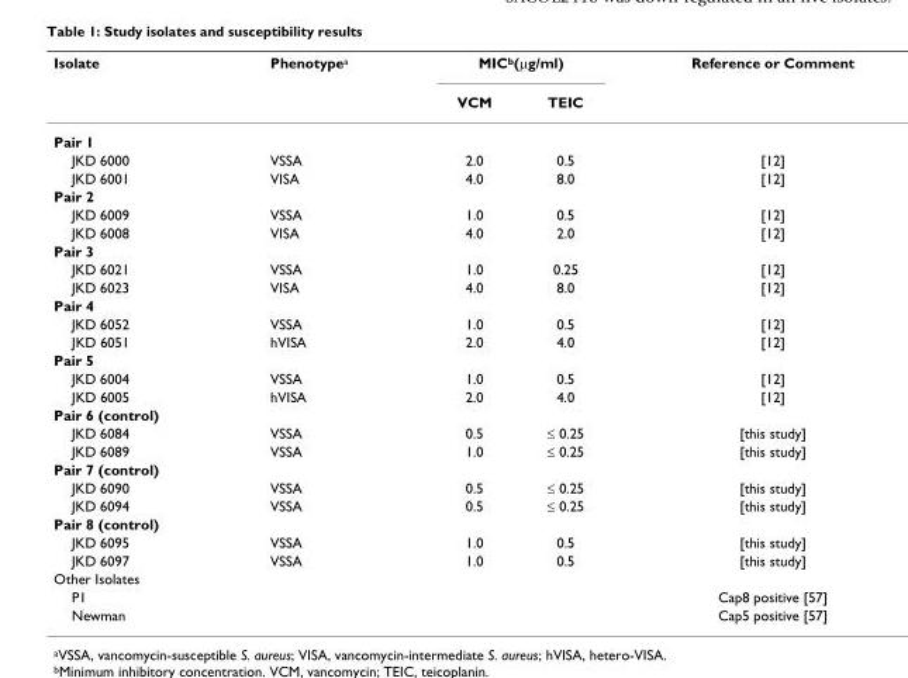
<table><thead><tr><td rowspan="2">Isolate</td><td rowspan="2">Phenotype<sup>a</sup></td><td colspan="2">MIC<sup>b</sup>(μg/ml)</td><td rowspan="2">Reference or Comment</td></tr><tr><td>VCM</td><td>TEIC</td></tr></thead><tbody><tr><td colspan="5">Pair 1</td></tr><tr><td>JKD 6000</td><td>VSSA</td><td>2.0</td><td>0.5</td><td>[12]</td></tr><tr><td>JKD 6001</td><td>VISA</td><td>4.0</td><td>8.0</td><td>[12]</td></tr><tr><td colspan="5">Pair 2</td></tr><tr><td>JKD 6009</td><td>VSSA</td><td>1.0</td><td>0.5</td><td>[12]</td></tr><tr><td>JKD 6008</td><td>VISA</td><td>4.0</td><td>2.0</td><td>[12]</td></tr><tr><td colspan="5">Pair 3</td></tr><tr><td>JKD 6021</td><td>VSSA</td><td>1.0</td><td>0.25</td><td>[12]</td></tr><tr><td>JKD 6023</td><td>VISA</td><td>4.0</td><td>8.0</td><td>[12]</td></tr><tr><td colspan="5">Pair 4</td></tr><tr><td>JKD 6052</td><td>VSSA</td><td>1.0</td><td>0.5</td><td>[12]</td></tr><tr><td>JKD 6051</td><td>hVISA</td><td>2.0</td><td>4.0</td><td>[12]</td></tr><tr><td colspan="5">Pair 5</td></tr><tr><td>JKD 6004</td><td>VSSA</td><td>1.0</td><td>0.5</td><td>[12]</td></tr><tr><td>JKD 6005</td><td>hVISA</td><td>2.0</td><td>4.0</td><td>[12]</td></tr><tr><td colspan="5">Pair 6 (control)</td></tr><tr><td>JKD 6084</td><td>VSSA</td><td>0.5</td><td>≤ 0.25</td><td>[this study]</td></tr><tr><td>JKD 6089</td><td>VSSA</td><td>1.0</td><td>≤ 0.25</td><td>[this study]</td></tr><tr><td colspan="5">Pair 7 (control)</td></tr><tr><td>JKD 6090</td><td>VSSA</td><td>0.5</td><td>≤ 0.25</td><td>[this study]</td></tr><tr><td>JKD 6094</td><td>VSSA</td><td>0.5</td><td>≤ 0.25</td><td>[this study]</td></tr><tr><td colspan="5">Pair 8 (control)</td></tr><tr><td>JKD 6095</td><td>VSSA</td><td>1.0</td><td>0.5</td><td>[this study]</td></tr><tr><td>JKD 6097</td><td>VSSA</td><td>1.0</td><td>0.5</td><td>[this study]</td></tr><tr><td colspan="5">Other Isolates</td></tr><tr><td>P1</td><td></td><td></td><td></td><td>Cap8 positive [57]</td></tr><tr><td>Newman</td><td></td><td></td><td></td><td>Cap5 positive [57]</td></tr></tbody></table>